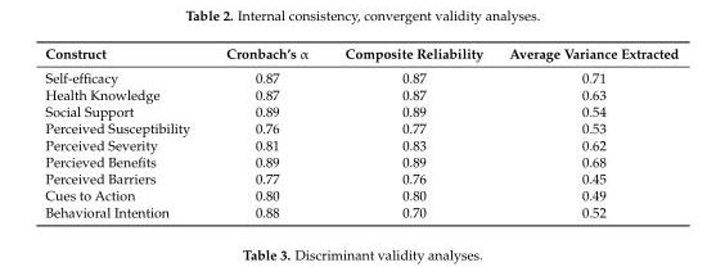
<table><thead><tr><td>Construct</td><td>Cronbach’s α</td><td>Composite Reliability</td><td>Average Variance Extracted</td></tr></thead><tbody><tr><td>Self-efficacy</td><td>0.87</td><td>0.87</td><td>0.71</td></tr><tr><td>Health Knowledge</td><td>0.87</td><td>0.87</td><td>0.63</td></tr><tr><td>Social Support</td><td>0.89</td><td>0.89</td><td>0.54</td></tr><tr><td>Perceived Susceptibility</td><td>0.76</td><td>0.77</td><td>0.53</td></tr><tr><td>Perceived Severity</td><td>0.81</td><td>0.83</td><td>0.62</td></tr><tr><td>Percieved Benefits</td><td>0.89</td><td>0.89</td><td>0.68</td></tr><tr><td>Perceived Barriers</td><td>0.77</td><td>0.76</td><td>0.45</td></tr><tr><td>Cues to Action</td><td>0.80</td><td>0.80</td><td>0.49</td></tr><tr><td>Behavioral Intention</td><td>0.88</td><td>0.70</td><td>0.52</td></tr></tbody></table>